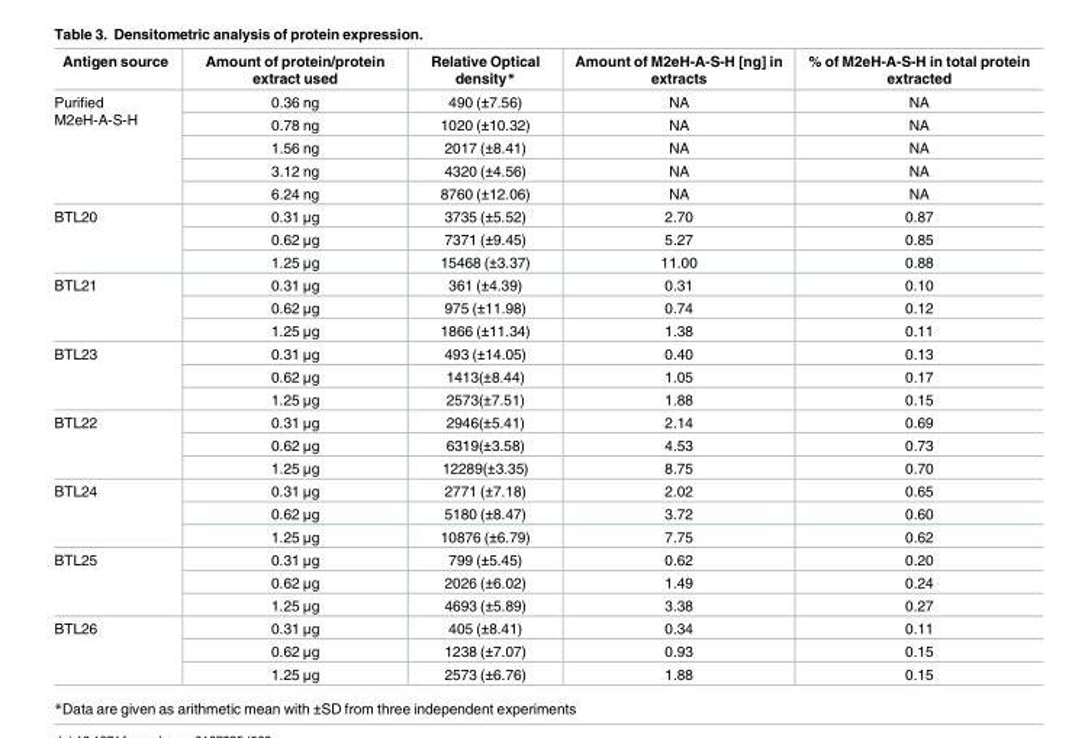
<table><thead><tr><td>Antigen source</td><td>Amount of protein/protein extract used</td><td>Relative Optical density*</td><td>Amount of M2eH-A-S-H [ng] in extracts</td><td>% of M2eH-A-S-H in total protein extracted</td></tr></thead><tbody><tr><td rowspan="5">Purified M2eH-A-S-H</td><td>0.36 ng</td><td>490 (±7.56)</td><td>NA</td><td>NA</td></tr><tr><td>0.78 ng</td><td>1020 (±10.32)</td><td>NA</td><td>NA</td></tr><tr><td>1.56 ng</td><td>2017 (±8.41)</td><td>NA</td><td>NA</td></tr><tr><td>3.12 ng</td><td>4320 (±4.56)</td><td>NA</td><td>NA</td></tr><tr><td>6.24 ng</td><td>8760 (±12.06)</td><td>NA</td><td>NA</td></tr><tr><td rowspan="3">BTL20</td><td>0.31 μg</td><td>3735 (±5.52)</td><td>2.70</td><td>0.87</td></tr><tr><td>0.62 μg</td><td>7371 (±9.45)</td><td>5.27</td><td>0.85</td></tr><tr><td>1.25 μg</td><td>15468 (±3.37)</td><td>11.00</td><td>0.88</td></tr><tr><td rowspan="3">BTL21</td><td>0.31 μg</td><td>361 (±4.39)</td><td>0.31</td><td>0.10</td></tr><tr><td>0.62 μg</td><td>975 (±11.98)</td><td>0.74</td><td>0.12</td></tr><tr><td>1.25 μg</td><td>1866 (±11.34)</td><td>1.38</td><td>0.11</td></tr><tr><td rowspan="3">BTL23</td><td>0.31 μg</td><td>493 (±14.05)</td><td>0.40</td><td>0.13</td></tr><tr><td>0.62 μg</td><td>1413(±8.44)</td><td>1.05</td><td>0.17</td></tr><tr><td>1.25 μg</td><td>2573(±7.51)</td><td>1.88</td><td>0.15</td></tr><tr><td rowspan="3">BTL22</td><td>0.31 μg</td><td>2946(±5.41)</td><td>2.14</td><td>0.69</td></tr><tr><td>0.62 μg</td><td>6319(±3.58)</td><td>4.53</td><td>0.73</td></tr><tr><td>1.25 μg</td><td>12289(±3.35)</td><td>8.75</td><td>0.70</td></tr><tr><td rowspan="3">BTL24</td><td>0.31 μg</td><td>2771 (±7.18)</td><td>2.02</td><td>0.65</td></tr><tr><td>0.62 μg</td><td>5180 (±8.47)</td><td>3.72</td><td>0.60</td></tr><tr><td>1.25 μg</td><td>10876 (±6.79)</td><td>7.75</td><td>0.62</td></tr><tr><td rowspan="3">BTL25</td><td>0.31 μg</td><td>799 (±5.45)</td><td>0.62</td><td>0.20</td></tr><tr><td>0.62 μg</td><td>2026 (±6.02)</td><td>1.49</td><td>0.24</td></tr><tr><td>1.25 μg</td><td>4693 (±5.89)</td><td>3.38</td><td>0.27</td></tr><tr><td rowspan="3">BTL26</td><td>0.31 μg</td><td>405 (±8.41)</td><td>0.34</td><td>0.11</td></tr><tr><td>0.62 μg</td><td>1238 (±7.07)</td><td>0.93</td><td>0.15</td></tr><tr><td>1.25 μg</td><td>2573 (±6.76)</td><td>1.88</td><td>0.15</td></tr></tbody></table>